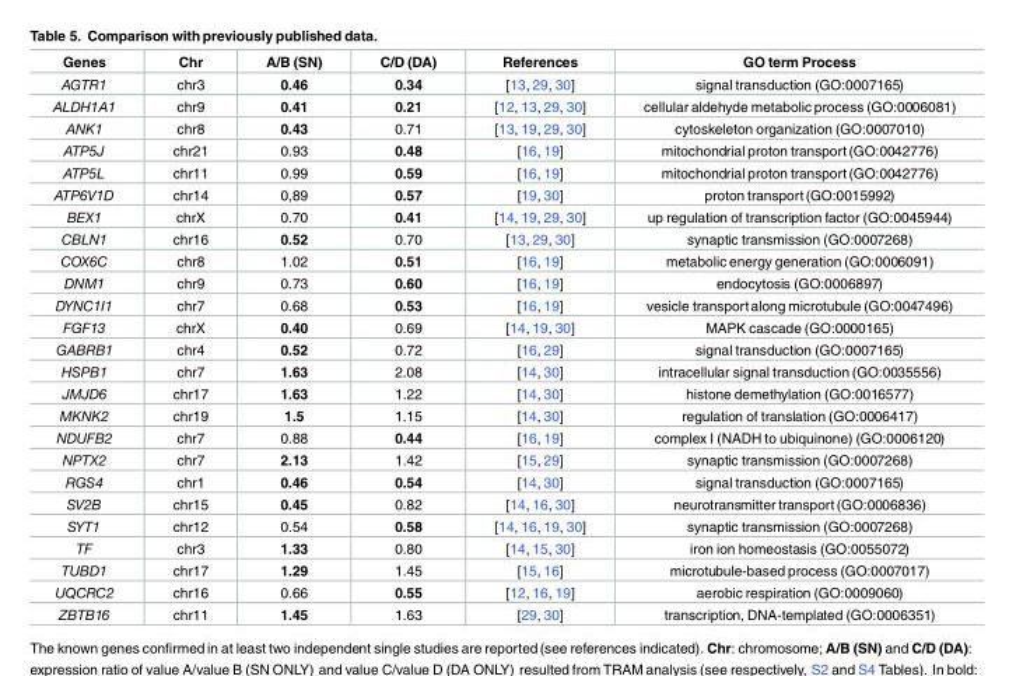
<table><thead><tr><td>Genes</td><td>Chr</td><td>A/B (SN)</td><td>C/D (DA)</td><td>References</td><td>GO term Process</td></tr></thead><tbody><tr><td>AGTR1</td><td>chr3</td><td>0.46</td><td>0.34</td><td>[13, 29, 30]</td><td>signal transduction (GO:0007165)</td></tr><tr><td>ALDH1A1</td><td>chr9</td><td>0.41</td><td>0.21</td><td>[12, 13, 29, 30]</td><td>cellular aldehyde metabolic process (GO:0006081)</td></tr><tr><td>ANK1</td><td>chr8</td><td>0.43</td><td>0.71</td><td>[13, 19, 29, 30]</td><td>cytoskeleton organization (GO:0007010)</td></tr><tr><td>ATP5J</td><td>chr21</td><td>0.93</td><td>0.48</td><td>[16, 19]</td><td>mitochondrial proton transport(GO:0042776)</td></tr><tr><td>ATP5L</td><td>chr11</td><td>0.99</td><td>0.59</td><td>[16, 19]</td><td>mitochondrial proton transport(GO:0042776)</td></tr><tr><td>ATP6V1D</td><td>chr14</td><td>0,89</td><td>0.57</td><td>[19, 30]</td><td>proton transport(GO:0015992)</td></tr><tr><td>BEX1</td><td>chrX</td><td>0.70</td><td>0.41</td><td>[14, 19, 29, 30]</td><td>up regulation of transcription factor (GO:0045944)</td></tr><tr><td>CBLN1</td><td>chr16</td><td>0.52</td><td>0.70</td><td>[13, 29, 30]</td><td>synaptic transmission (GO:0007268)</td></tr><tr><td>COX6C</td><td>chr8</td><td>1.02</td><td>0.51</td><td>[16, 19]</td><td>metabolic energy generation (GO:0006091)</td></tr><tr><td>DNM1</td><td>chr9</td><td>0.73</td><td>0.60</td><td>[16, 19]</td><td>endocytosis (GO:0006897)</td></tr><tr><td>DYNC1I1</td><td>chr7</td><td>0.68</td><td>0.53</td><td>[16, 19]</td><td>vesicle transportalong microtubule (GO:0047496)</td></tr><tr><td>FGF13</td><td>chrX</td><td>0.40</td><td>0.69</td><td>[14, 19, 30]</td><td>MAPK cascade (GO:0000165)</td></tr><tr><td>GABRB1</td><td>chr4</td><td>0.52</td><td>0.72</td><td>[16, 29]</td><td>signal transduction (GO:0007165)</td></tr><tr><td>HSPB1</td><td>chr7</td><td>1.63</td><td>2.08</td><td>[14, 30]</td><td>intracellular signal transduction (GO:0035556)</td></tr><tr><td>JMJD6</td><td>chr17</td><td>1.63</td><td>1.22</td><td>[14, 30]</td><td>histone demethylation (GO:0016577)</td></tr><tr><td>MKNK2</td><td>chr19</td><td>1.5</td><td>1.15</td><td>[14, 30]</td><td>regulation of translation (GO:0006417)</td></tr><tr><td>NDUFB2</td><td>chr7</td><td>0.88</td><td>0.44</td><td>[16, 19]</td><td>complex I (NADH to ubiquinone) (GO:0006120)</td></tr><tr><td>NPTX2</td><td>chr7</td><td>2.13</td><td>1.42</td><td>[15, 29]</td><td>synaptic transmission (GO:0007268)</td></tr><tr><td>RGS4</td><td>chr1</td><td>0.46</td><td>0.54</td><td>[14, 30]</td><td>signal transduction (GO:0007165)</td></tr><tr><td>SV2B</td><td>chr15</td><td>0.45</td><td>0.82</td><td>[14, 16, 30]</td><td>neurotransmitter transport(GO:0006836)</td></tr><tr><td>SYT1</td><td>chr12</td><td>0.54</td><td>0.58</td><td>[14, 16, 19, 30]</td><td>synaptic transmission (GO:0007268)</td></tr><tr><td>TF</td><td>chr3</td><td>1.33</td><td>0.80</td><td>[14, 15, 30]</td><td>iron ion homeostasis (GO:0055072)</td></tr><tr><td>TUBD1</td><td>chr17</td><td>1.29</td><td>1.45</td><td>[15, 16]</td><td>microtubule-based process (GO:0007017)</td></tr><tr><td>UQCRC2</td><td>chr16</td><td>0.66</td><td>0.55</td><td>[12, 16, 19]</td><td>aerobic respiration (GO:0009060)</td></tr><tr><td>ZBTB16</td><td>chr11</td><td>1.45</td><td>1.63</td><td>[29, 30]</td><td>transcription, DNA-templated (GO:0006351)</td></tr></tbody></table>